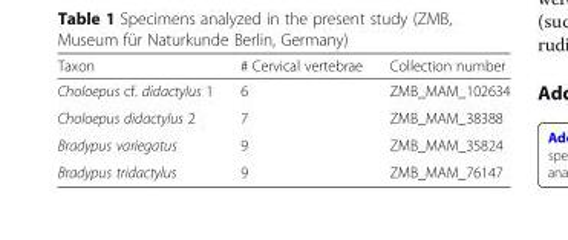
<table><thead><tr><td>Taxon</td><td># Cervical vertebrae</td><td>Collection number</td></tr></thead><tbody><tr><td>Choloepus cf. didactylus 1</td><td>6</td><td>ZMB_MAM_102634</td></tr><tr><td>Choloepus didactylus 2</td><td>7</td><td>ZMB_MAM_38388</td></tr><tr><td>Bradypus variegatus</td><td>9</td><td>ZMB_MAM_35824</td></tr><tr><td>Bradypus tridactylus</td><td>9</td><td>ZMB_MAM_76147</td></tr></tbody></table>